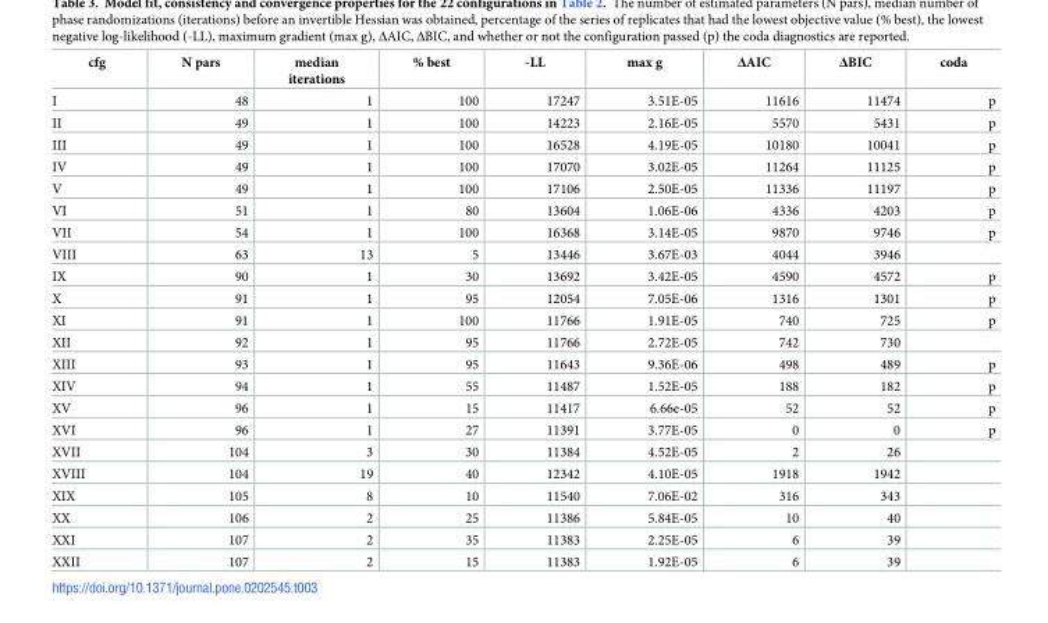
<table><thead><tr><td>cfg</td><td>N pars</td><td>median iterations</td><td>% best</td><td>-LL</td><td>max g</td><td>ΔAIC</td><td>ΔBIC</td><td>coda</td></tr></thead><tbody><tr><td>I</td><td>48</td><td>1</td><td>100</td><td>17247</td><td>3.51E-05</td><td>11616</td><td>11474</td><td>p</td></tr><tr><td>II</td><td>49</td><td>1</td><td>100</td><td>14223</td><td>2.16E-05</td><td>5570</td><td>5431</td><td>p</td></tr><tr><td>III</td><td>49</td><td>1</td><td>100</td><td>16528</td><td>4.19E-05</td><td>10180</td><td>10041</td><td>p</td></tr><tr><td>IV</td><td>49</td><td>1</td><td>100</td><td>17070</td><td>3.02E-05</td><td>11264</td><td>11125</td><td>p</td></tr><tr><td>V</td><td>49</td><td>1</td><td>100</td><td>17106</td><td>2.50E-05</td><td>11336</td><td>11197</td><td>p</td></tr><tr><td>VI</td><td>51</td><td>1</td><td>80</td><td>13604</td><td>1.06E-06</td><td>4336</td><td>4203</td><td>p</td></tr><tr><td>VII</td><td>54</td><td>1</td><td>100</td><td>16368</td><td>3.14E-05</td><td>9870</td><td>9746</td><td>p</td></tr><tr><td>VIII</td><td>63</td><td>13</td><td>5</td><td>13446</td><td>3.67E-03</td><td>4044</td><td>3946</td><td></td></tr><tr><td>IX</td><td>90</td><td>1</td><td>30</td><td>13692</td><td>3.42E-05</td><td>4590</td><td>4572</td><td>p</td></tr><tr><td>X</td><td>91</td><td>1</td><td>95</td><td>12054</td><td>7.05E-06</td><td>1316</td><td>1301</td><td>p</td></tr><tr><td>XI</td><td>91</td><td>1</td><td>100</td><td>11766</td><td>1.91E-05</td><td>740</td><td>725</td><td>p</td></tr><tr><td>XII</td><td>92</td><td>1</td><td>95</td><td>11766</td><td>2.72E-05</td><td>742</td><td>730</td><td></td></tr><tr><td>XIII</td><td>93</td><td>1</td><td>95</td><td>11643</td><td>9.36E-06</td><td>498</td><td>489</td><td>p</td></tr><tr><td>XIV</td><td>94</td><td>1</td><td>55</td><td>11487</td><td>1.52E-05</td><td>188</td><td>182</td><td>p</td></tr><tr><td>XV</td><td>96</td><td>1</td><td>15</td><td>11417</td><td>6.66e-05</td><td>52</td><td>52</td><td>p</td></tr><tr><td>XVI</td><td>96</td><td>1</td><td>27</td><td>11391</td><td>3.77E-05</td><td>0</td><td>0</td><td>p</td></tr><tr><td>XVII</td><td>104</td><td>3</td><td>30</td><td>11384</td><td>4.52E-05</td><td>2</td><td>26</td><td></td></tr><tr><td>XVIII</td><td>104</td><td>19</td><td>40</td><td>12342</td><td>4.10E-05</td><td>1918</td><td>1942</td><td></td></tr><tr><td>XIX</td><td>105</td><td>8</td><td>10</td><td>11540</td><td>7.06E-02</td><td>316</td><td>343</td><td></td></tr><tr><td>XX</td><td>106</td><td>2</td><td>25</td><td>11386</td><td>5.84E-05</td><td>10</td><td>40</td><td></td></tr><tr><td>XXI</td><td>107</td><td>2</td><td>35</td><td>11383</td><td>2.25E-05</td><td>6</td><td>39</td><td></td></tr><tr><td>XXII</td><td>107</td><td>2</td><td>15</td><td>11383</td><td>1.92E-05</td><td>6</td><td>39</td><td></td></tr></tbody></table>